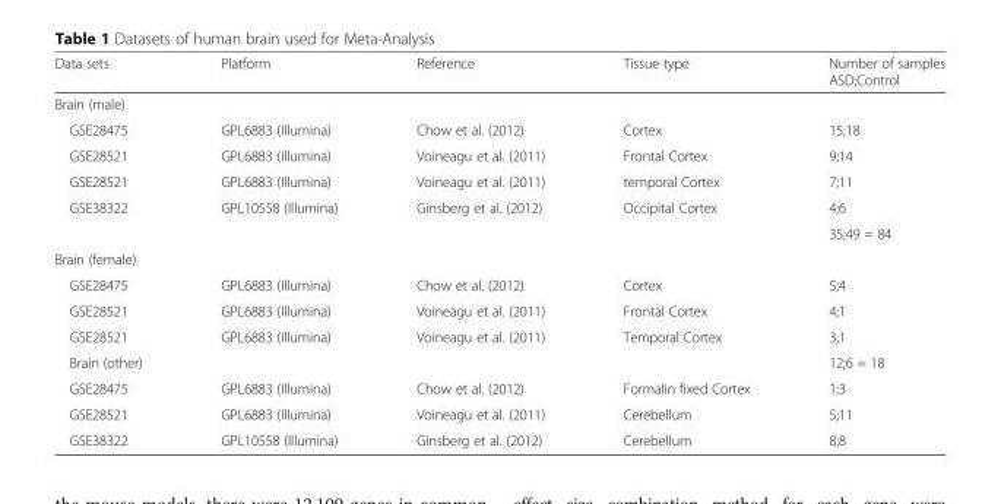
<table><thead><tr><td>Data sets</td><td>Platform</td><td>Reference</td><td>Tissue type</td><td>Number of samples ASD;Control</td></tr></thead><tbody><tr><td colspan="5">Brain (male)</td></tr><tr><td>GSE28475</td><td>GPL6883 (Illumina)</td><td>Chow et al. (2012)</td><td>Cortex</td><td>15;18</td></tr><tr><td>GSE28521</td><td>GPL6883 (Illumina)</td><td>Voineagu et al. (2011)</td><td>Frontal Cortex</td><td>9;14</td></tr><tr><td>GSE28521</td><td>GPL6883 (Illumina)</td><td>Voineagu et al. (2011)</td><td>temporal Cortex</td><td>7;11</td></tr><tr><td rowspan="2">GSE38322</td><td>GPL10558 (Illumina)</td><td>Ginsberg et al. (2012)</td><td>Occipital Cortex</td><td>4;6</td></tr><tr><td></td><td></td><td></td><td>35;49 = 84</td></tr><tr><td colspan="5">Brain (female)</td></tr><tr><td>GSE28475</td><td>GPL6883 (Illumina)</td><td>Chow et al. (2012)</td><td>Cortex</td><td>5;4</td></tr><tr><td>GSE28521</td><td>GPL6883 (Illumina)</td><td>Voineagu et al. (2011)</td><td>Frontal Cortex</td><td>4;1</td></tr><tr><td>GSE28521</td><td>GPL6883 (Illumina)</td><td>Voineagu et al. (2011)</td><td>Temporal Cortex</td><td>3;1</td></tr><tr><td>Brain (other)</td><td></td><td></td><td></td><td>12;6 = 18</td></tr><tr><td>GSE28475</td><td>GPL6883 (Illumina)</td><td>Chow et al. (2012)</td><td>Formalin fixed Cortex</td><td>1;3</td></tr><tr><td>GSE28521</td><td>GPL6883 (Illumina)</td><td>Voineagu et al. (2011)</td><td>Cerebellum</td><td>5;11</td></tr><tr><td>GSE38322</td><td>GPL10558 (Illumina)</td><td>Ginsberg et al. (2012)</td><td>Cerebellum</td><td>8;8</td></tr></tbody></table>